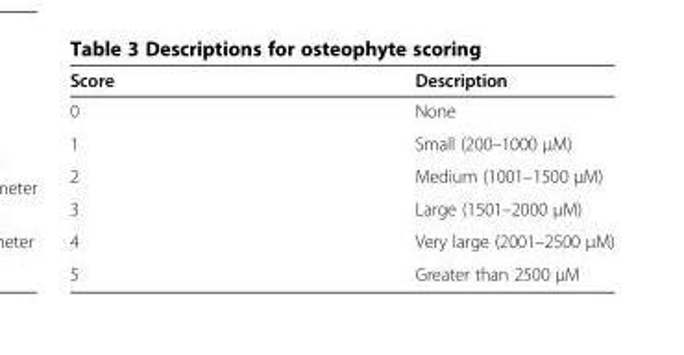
<table><thead><tr><td>Score</td><td>Description</td></tr></thead><tbody><tr><td>0</td><td>None</td></tr><tr><td>1</td><td>Small (200–1000 µM)</td></tr><tr><td>2</td><td>Medium (1001–1500 µM)</td></tr><tr><td>3</td><td>Large (1501–2000 µM)</td></tr><tr><td>4</td><td>Very large (2001–2500 µM)</td></tr><tr><td>5</td><td>Greater than 2500 µM</td></tr></tbody></table>